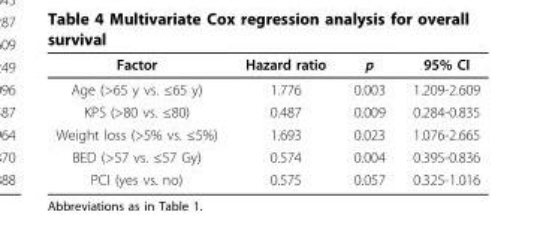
<table><thead><tr><td>Factor</td><td>Hazard ratio</td><td>p</td><td>95% CI</td></tr></thead><tbody><tr><td>Age (&gt;65 y vs. ≤65 y)</td><td>1.776</td><td>0.003</td><td>1.209-2.609</td></tr><tr><td>KPS (&gt;80 vs. ≤80)</td><td>0.487</td><td>0.009</td><td>0.284-0.835</td></tr><tr><td>Weight loss (&gt;5% vs. ≤5%)</td><td>1.693</td><td>0.023</td><td>1.076-2.665</td></tr><tr><td>BED (&gt;57 vs. ≤57 Gy)</td><td>0.574</td><td>0.004</td><td>0.395-0.836</td></tr><tr><td>PCI (yes vs. no)</td><td>0.575</td><td>0.057</td><td>0.325-1.016</td></tr></tbody></table>